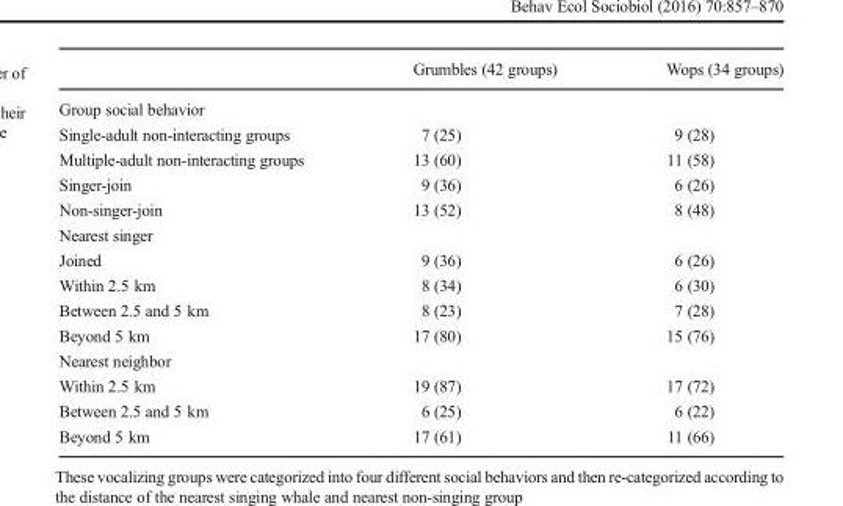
<table><thead><tr><td></td><td>Grumbles (42 groups)</td><td>Wops (34 groups)</td></tr></thead><tbody><tr><td colspan="3">Group social behavior</td></tr><tr><td>Single-adult non-interacting groups</td><td>7 (25)</td><td>9 (28)</td></tr><tr><td>Multiple-adult non-interacting groups</td><td>13 (60)</td><td>11 (58)</td></tr><tr><td>Singer-join</td><td>9 (36)</td><td>6 (26)</td></tr><tr><td>Non-singer-join</td><td>13 (52)</td><td>8 (48)</td></tr><tr><td colspan="3">Nearest singer</td></tr><tr><td>Joined</td><td>9 (36)</td><td>6 (26)</td></tr><tr><td>Within 2.5 km</td><td>8 (34)</td><td>6 (30)</td></tr><tr><td>Between 2.5 and 5 km</td><td>8 (23)</td><td>7 (28)</td></tr><tr><td>Beyond 5 km</td><td>17 (80)</td><td>15 (76)</td></tr><tr><td colspan="3">Nearest neighbor</td></tr><tr><td>Within 2.5 km</td><td>19 (87)</td><td>17 (72)</td></tr><tr><td>Between 2.5 and 5 km</td><td>6 (25)</td><td>6 (22)</td></tr><tr><td>Beyond 5 km</td><td>17 (61)</td><td>11 (66)</td></tr></tbody></table>